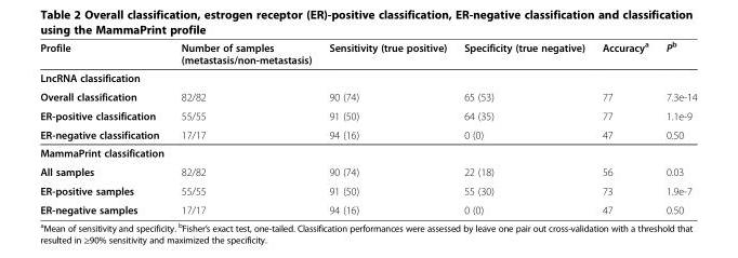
<table><thead><tr><td>Profile</td><td>Number of samples (metastasis/non-metastasis)</td><td>Sensitivity (true positive)</td><td>Specificity (true negative)</td><td>Accuracy<sup>a</sup></td><td>P<sup>b</sup></td></tr></thead><tbody><tr><td colspan="6">LncRNA classification</td></tr><tr><td>Overall classification</td><td>82/82</td><td>90 (74)</td><td>65 (53)</td><td>77</td><td>7.3e-14</td></tr><tr><td>ER-positive classification</td><td>55/55</td><td>91 (50)</td><td>64 (35)</td><td>77</td><td>1.1e-9</td></tr><tr><td>ER-negative classification</td><td>17/17</td><td>94 (16)</td><td>0 (0)</td><td>47</td><td>0.50</td></tr><tr><td colspan="6">MammaPrint classification</td></tr><tr><td>All samples</td><td>82/82</td><td>90 (74)</td><td>22 (18)</td><td>56</td><td>0.03</td></tr><tr><td>ER-positive samples</td><td>55/55</td><td>91 (50)</td><td>55 (30)</td><td>73</td><td>1.9e-7</td></tr><tr><td>ER-negative samples</td><td>17/17</td><td>94 (16)</td><td>0 (0)</td><td>47</td><td>0.50</td></tr></tbody></table>